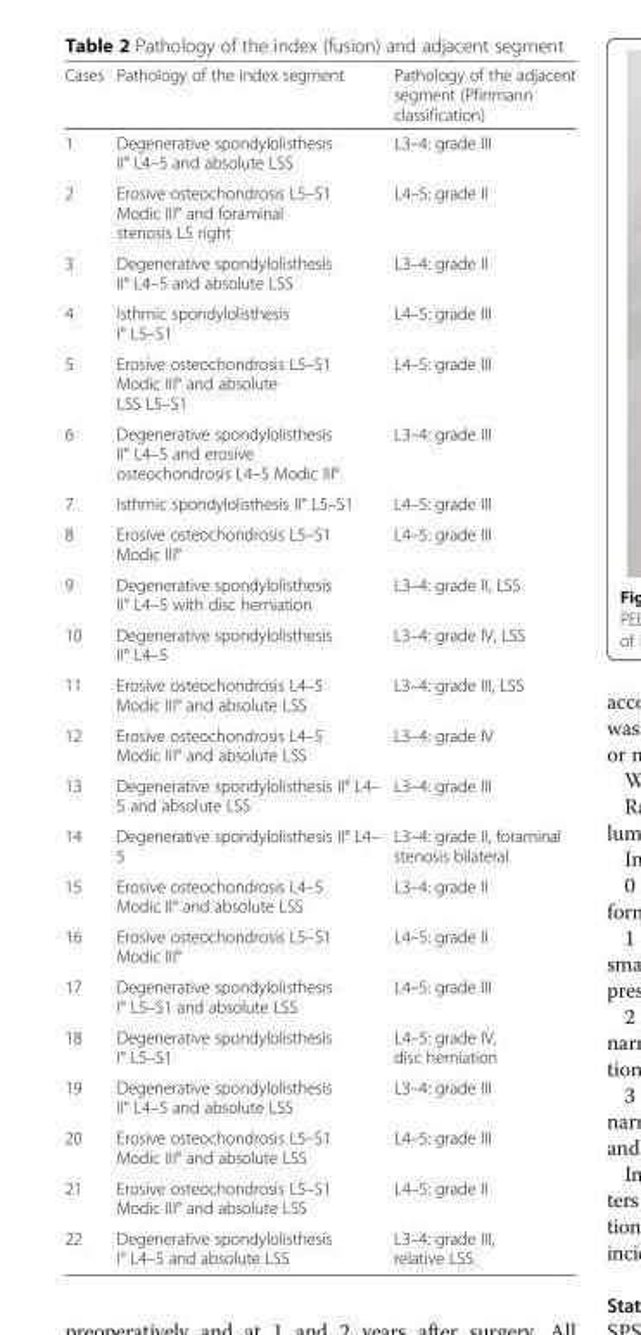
<table><thead><tr><td>Cases</td><td>Pathology of the index segment</td><td>Pathology of the adjacent segment (Pfirrmann classification)</td></tr></thead><tbody><tr><td>1</td><td>Degenerative spondylolisthesis II° L4–5 and absolute LSS</td><td>L3–4: grade III</td></tr><tr><td>2</td><td>Erosive osteochondrosis L5–S1 Modic III° and foraminal stenosis L5 right</td><td>L4–5: grade II</td></tr><tr><td>3</td><td>Degenerative spondylolisthesis II° L4–5 and absolute LSS</td><td>L3–4: grade II</td></tr><tr><td>4</td><td>Isthmic spondylolisthesis I° L5–S1</td><td>L4–5: grade III</td></tr><tr><td>5</td><td>Erosive osteochondrosis L5–S1 Modic III° and absolute LSS L5–S1</td><td>L4–5: grade III</td></tr><tr><td>6</td><td>Degenerative spondylolisthesis II° L4–5 and erosive osteochondrosis L4–5 Modic III°</td><td>L3–4: grade III</td></tr><tr><td>7</td><td>Isthmic spondylolisthesis II° L5–S1</td><td>L4–5: grade III</td></tr><tr><td>8</td><td>Erosive osteochondrosis L5–S1 Modic III°</td><td>L4–5: grade III</td></tr><tr><td>9</td><td>Degenerative spondylolisthesis II° L4–5 with disc herniation</td><td>L3–4: grade II, LSS</td></tr><tr><td>10</td><td>Degenerative spondylolisthesis II° L4–5</td><td>L3–4: grade IV, LSS</td></tr><tr><td>11</td><td>Erosive osteochondrosis L4–5 Modic III° and absolute LSS</td><td>L3–4: grade III, LSS</td></tr><tr><td>12</td><td>Erosive osteochondrosis L4–5 Modic III° and absolute LSS</td><td>L3–4: grade IV</td></tr><tr><td>13</td><td>Degenerative spondylolisthesis II° L4– 5 and absolute LSS</td><td>L3–4: grade III</td></tr><tr><td>14</td><td>Degenerative spondylolisthesis II° L4– 5</td><td>L3–4: grade II, foraminal stenosis bilateral</td></tr><tr><td>15</td><td>Erosive osteochondrosis L4–5 Modic II° and absolute LSS</td><td>L3–4: grade II</td></tr><tr><td>16</td><td>Erosive osteochondrosis L5–S1 Modic III°</td><td>L4–5: grade II</td></tr><tr><td>17</td><td>Degenerative spondylolisthesis I° L5–S1 and absolute LSS</td><td>L4–5: grade III</td></tr><tr><td>18</td><td>Degenerative spondylolisthesis I° L5–S1</td><td>L4–5: grade IV, disc herniation</td></tr><tr><td>19</td><td>Degenerative spondylolisthesis II° L4–5 and absolute LSS</td><td>L3–4: grade III</td></tr><tr><td>20</td><td>Erosive osteochondrosis L5–S1 Modic III° and absolute LSS</td><td>L4–5: grade III</td></tr><tr><td>21</td><td>Erosive osteochondrosis L5–S1 Modic III° and absolute LSS</td><td>L4–5: grade II</td></tr><tr><td>22</td><td>Degenerative spondylolisthesis I° L4–5 and absolute LSS</td><td>L3–4: grade III, relative LSS</td></tr></tbody></table>